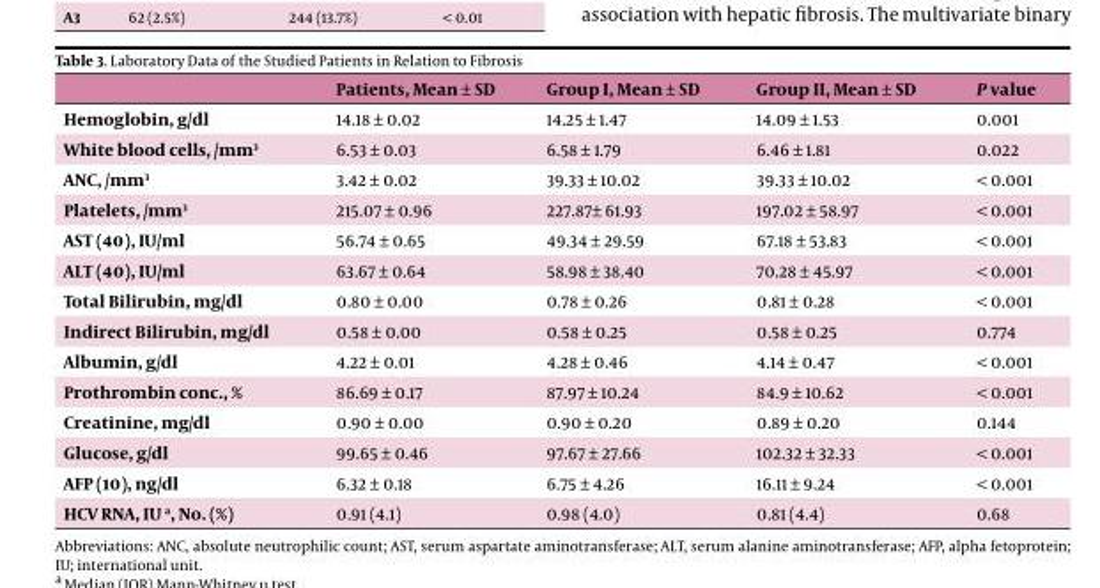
<table><thead><tr><td></td><td>Patients, Mean ± SD</td><td>Group I, Mean ± SD</td><td>Group II, Mean ± SD</td><td>P value</td></tr></thead><tbody><tr><td>Hemoglobin, g/dl</td><td>14.18 ± 0.02</td><td>14.25 ± 1.47</td><td>14.09 ± 1.53</td><td>0.001</td></tr><tr><td>White blood cells, /mm<sup>3</sup></td><td>6.53 ± 0.03</td><td>6.58 ± 1.79</td><td>6.46 ± 1.81</td><td>0.022</td></tr><tr><td>ANC, /mm<sup>3</sup></td><td>3.42 ± 0.02</td><td>39.33 ± 10.02</td><td>39.33 ± 10.02</td><td>&lt; 0.001</td></tr><tr><td>Platelets, /mm<sup>3</sup></td><td>215.07 ± 0.96</td><td>227.87± 61.93</td><td>197.02 ± 58.97</td><td>&lt; 0.001</td></tr><tr><td>AST (40), IU/ml</td><td>56.74 ± 0.65</td><td>49.34 ± 29.59</td><td>67.18 ± 53.83</td><td>&lt; 0.001</td></tr><tr><td>ALT (40), IU/ml</td><td>63.67 ± 0.64</td><td>58.98 ± 38.40</td><td>70.28 ± 45.97</td><td>&lt; 0.001</td></tr><tr><td>Total Bilirubin, mg/dl</td><td>0.80 ± 0.00</td><td>0.78 ± 0.26</td><td>0.81 ± 0.28</td><td>&lt; 0.001</td></tr><tr><td>Indirect Bilirubin, mg/dl</td><td>0.58 ± 0.00</td><td>0.58 ± 0.25</td><td>0.58 ± 0.25</td><td>0.774</td></tr><tr><td>Albumin, g/dl</td><td>4.22 ± 0.01</td><td>4.28 ± 0.46</td><td>4.14 ± 0.47</td><td>&lt; 0.001</td></tr><tr><td>Prothrombin conc., %</td><td>86.69 ± 0.17</td><td>87.97 ± 10.24</td><td>84.9 ± 10.62</td><td>&lt; 0.001</td></tr><tr><td>Creatinine, mg/dl</td><td>0.90 ± 0.00</td><td>0.90 ± 0.20</td><td>0.89 ± 0.20</td><td>0.144</td></tr><tr><td>Glucose, g/dl</td><td>99.65 ± 0.46</td><td>97.67 ± 27.66</td><td>102.32 ± 32.33</td><td>&lt; 0.001</td></tr><tr><td>AFP (10), ng/dl</td><td>6.32 ± 0.18</td><td>6.75 ± 4.26</td><td>16.11 ± 9.24</td><td>&lt; 0.001</td></tr><tr><td>HCV RNA, IU a, No. (%)</td><td>0.91 (4.1)</td><td>0.98 (4.0)</td><td>0.81 (4.4)</td><td>0.68</td></tr></tbody></table>